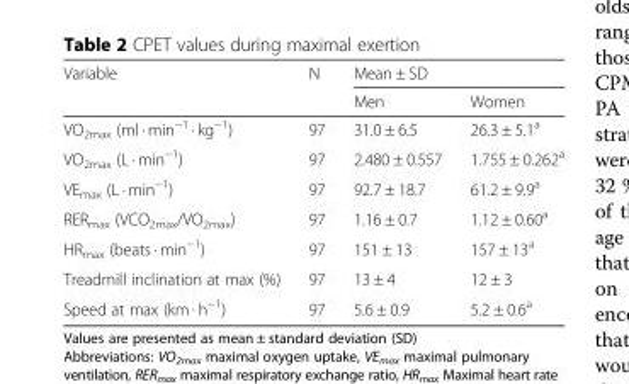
<table><thead><tr><td rowspan="2">Variable</td><td rowspan="2">N</td><td colspan="2">Mean ± SD</td></tr><tr><td>Men</td><td>Women</td></tr></thead><tbody><tr><td>VO<sub>2max</sub> (ml · min<sup>−1</sup> · kg<sup>−1</sup>)</td><td>97</td><td>31.0 ± 6.5</td><td>26.3 ± 5.1<sup>a</sup></td></tr><tr><td>VO<sub>2max</sub> (L · min<sup>−1</sup>)</td><td>97</td><td>2.480 ± 0.557</td><td>1.755 ± 0.262<sup>a</sup></td></tr><tr><td>VE<sub>max</sub> (L · min<sup>−1</sup>)</td><td>97</td><td>92.7 ± 18.7</td><td>61.2 ± 9.9<sup>a</sup></td></tr><tr><td>RER<sub>max</sub> (VCO<sub>2max</sub>/VO<sub>2max</sub>)</td><td>97</td><td>1.16 ± 0.7</td><td>1.12 ± 0.60<sup>a</sup></td></tr><tr><td>HR<sub>max</sub> (beats · min<sup>−1</sup>)</td><td>97</td><td>151 ± 13</td><td>157 ± 13<sup>a</sup></td></tr><tr><td>Treadmill inclination at max (%)</td><td>97</td><td>13 ± 4</td><td>12 ± 3</td></tr><tr><td>Speed at max (km · h<sup>−1</sup>)</td><td>97</td><td>5.6 ± 0.9</td><td>5.2 ± 0.6<sup>a</sup></td></tr></tbody></table>